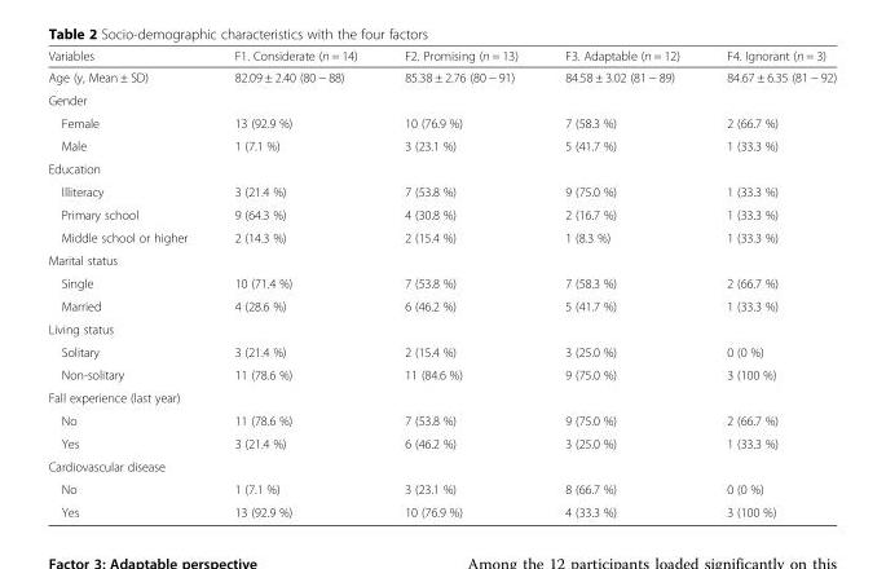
<table><thead><tr><td>Variables</td><td>F1. Considerate (n = 14)</td><td>F2. Promising (n = 13)</td><td>F3. Adaptable (n = 12)</td><td>F4. Ignorant (n = 3)</td></tr></thead><tbody><tr><td>Age (y, Mean ± SD)</td><td>82.09 ± 2.40 (80 − 88)</td><td>85.38 ± 2.76 (80 − 91)</td><td>84.58 ± 3.02 (81 − 89)</td><td>84.67 ± 6.35 (81 − 92)</td></tr><tr><td colspan="5">Gender</td></tr><tr><td>Female</td><td>13 (92.9 %)</td><td>10 (76.9 %)</td><td>7 (58.3 %)</td><td>2 (66.7 %)</td></tr><tr><td>Male</td><td>1 (7.1 %)</td><td>3 (23.1 %)</td><td>5 (41.7 %)</td><td>1 (33.3 %)</td></tr><tr><td colspan="5">Education</td></tr><tr><td>Illiteracy</td><td>3 (21.4 %)</td><td>7 (53.8 %)</td><td>9 (75.0 %)</td><td>1 (33.3 %)</td></tr><tr><td>Primary school</td><td>9 (64.3 %)</td><td>4 (30.8 %)</td><td>2 (16.7 %)</td><td>1 (33.3 %)</td></tr><tr><td>Middle school or higher</td><td>2 (14.3 %)</td><td>2 (15.4 %)</td><td>1 (8.3 %)</td><td>1 (33.3 %)</td></tr><tr><td colspan="5">Marital status</td></tr><tr><td>Single</td><td>10 (71.4 %)</td><td>7 (53.8 %)</td><td>7 (58.3 %)</td><td>2 (66.7 %)</td></tr><tr><td>Married</td><td>4 (28.6 %)</td><td>6 (46.2 %)</td><td>5 (41.7 %)</td><td>1 (33.3 %)</td></tr><tr><td colspan="5">Living status</td></tr><tr><td>Solitary</td><td>3 (21.4 %)</td><td>2 (15.4 %)</td><td>3 (25.0 %)</td><td>0 (0 %)</td></tr><tr><td>Non-solitary</td><td>11 (78.6 %)</td><td>11 (84.6 %)</td><td>9 (75.0 %)</td><td>3 (100 %)</td></tr><tr><td colspan="5">Fall experience (last year)</td></tr><tr><td>No</td><td>11 (78.6 %)</td><td>7 (53.8 %)</td><td>9 (75.0 %)</td><td>2 (66.7 %)</td></tr><tr><td>Yes</td><td>3 (21.4 %)</td><td>6 (46.2 %)</td><td>3 (25.0 %)</td><td>1 (33.3 %)</td></tr><tr><td colspan="5">Cardiovascular disease</td></tr><tr><td>No</td><td>1 (7.1 %)</td><td>3 (23.1 %)</td><td>8 (66.7 %)</td><td>0 (0 %)</td></tr><tr><td>Yes</td><td>13 (92.9 %)</td><td>10 (76.9 %)</td><td>4 (33.3 %)</td><td>3 (100 %)</td></tr></tbody></table>